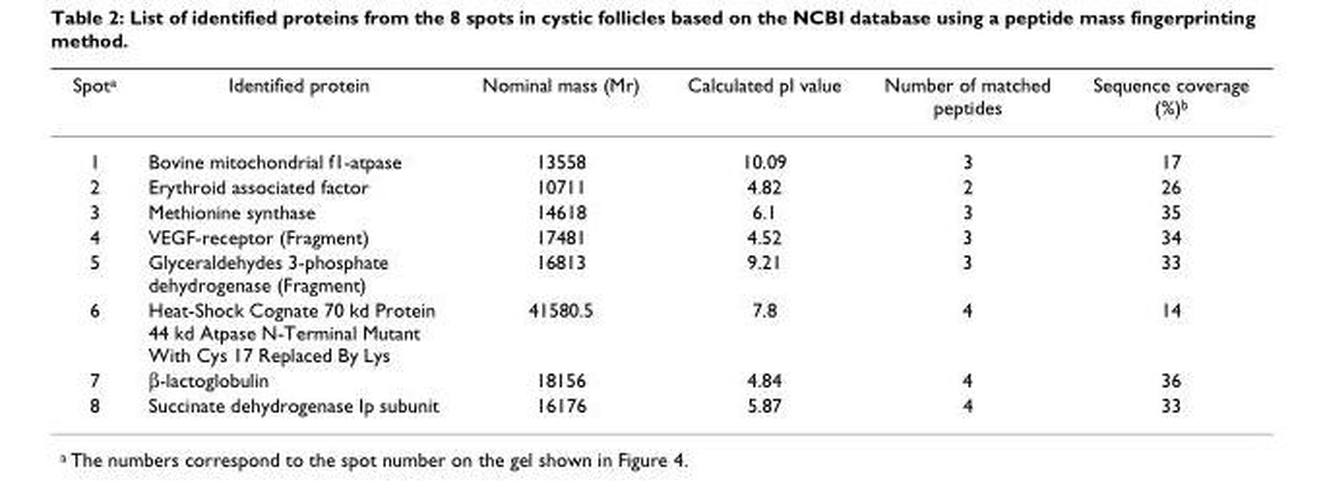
<table><thead><tr><td>Spot<sup>a</sup></td><td>Identified protein</td><td>Nominal mass (Mr)</td><td>Calculated pI value</td><td>Number of matched peptides</td><td>Sequence coverage (%)<sup>b</sup></td></tr></thead><tbody><tr><td>1</td><td>Bovine mitochondrial f1-atpase</td><td>13558</td><td>10.09</td><td>3</td><td>17</td></tr><tr><td>2</td><td>Erythroid associated factor</td><td>10711</td><td>4.82</td><td>2</td><td>26</td></tr><tr><td>3</td><td>Methionine synthase</td><td>14618</td><td>6.1</td><td>3</td><td>35</td></tr><tr><td>4</td><td>VEGF-receptor (Fragment)</td><td>17481</td><td>4.52</td><td>3</td><td>34</td></tr><tr><td>5</td><td>Glyceraldehydes 3-phosphate dehydrogenase (Fragment)</td><td>16813</td><td>9.21</td><td>3</td><td>33</td></tr><tr><td>6</td><td>Heat-Shock Cognate 70 kd Protein 44 kd Atpase N-Terminal Mutant With Cys 17 Replaced By Lys</td><td>41580.5</td><td>7.8</td><td>4</td><td>14</td></tr><tr><td>7</td><td>β-lactoglobulin</td><td>18156</td><td>4.84</td><td>4</td><td>36</td></tr><tr><td>8</td><td>Succinate dehydrogenase Ip subunit</td><td>16176</td><td>5.87</td><td>4</td><td>33</td></tr></tbody></table>